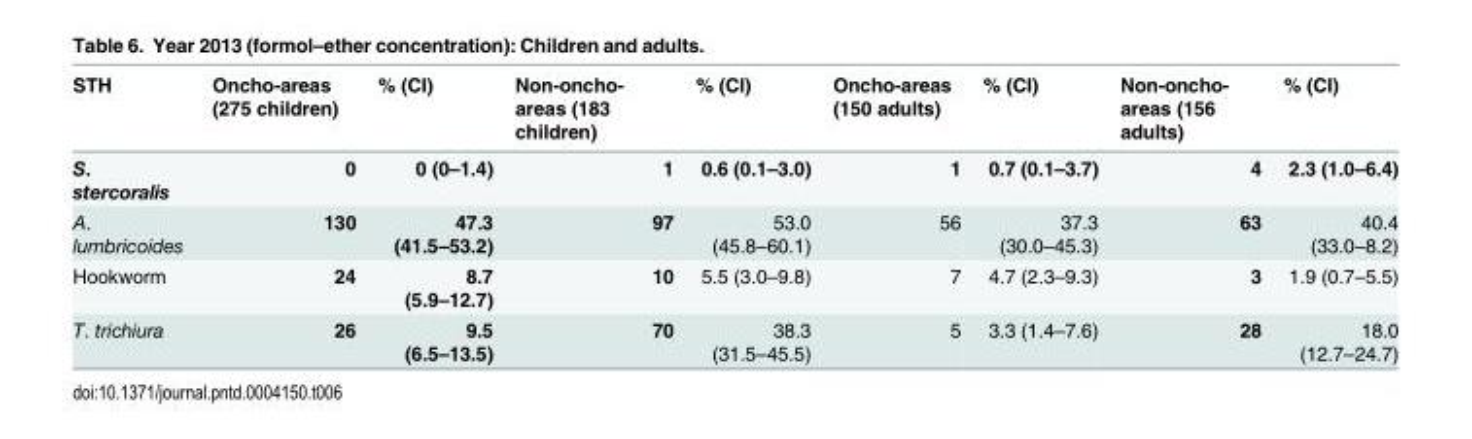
<table><thead><tr><td>STH</td><td>Oncho-areas (275 children)</td><td>% (CI)</td><td>Non-oncho- areas (183 children)</td><td>% (CI)</td><td>Oncho-areas (150 adults)</td><td>% (CI)</td><td>Non-oncho- areas (156 adults)</td><td>% (CI)</td></tr></thead><tbody><tr><td>S. stercoralis</td><td>0</td><td>0 (0–1.4)</td><td>1</td><td>0.6 (0.1–3.0)</td><td>1</td><td>0.7 (0.1–3.7)</td><td>4</td><td>2.3 (1.0–6.4)</td></tr><tr><td>A. lumbricoides</td><td>130</td><td>47.3 (41.5–53.2)</td><td>97</td><td>53.0 (45.8–60.1)</td><td>56</td><td>37.3 (30.0–45.3)</td><td>63</td><td>40.4 (33.0–8.2)</td></tr><tr><td>Hookworm</td><td>24</td><td>8.7 (5.9–12.7)</td><td>10</td><td>5.5 (3.0–9.8)</td><td>7</td><td>4.7 (2.3–9.3)</td><td>3</td><td>1.9 (0.7–5.5)</td></tr><tr><td>T. trichiura</td><td>26</td><td>9.5 (6.5–13.5)</td><td>70</td><td>38.3 (31.5–45.5)</td><td>5</td><td>3.3 (1.4–7.6)</td><td>28</td><td>18.0 (12.7–24.7)</td></tr></tbody></table>